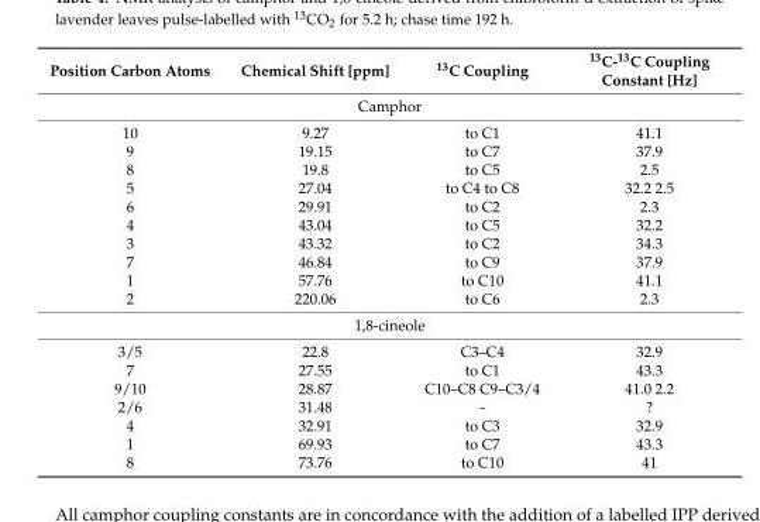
<table><thead><tr><td>Position Carbon Atoms</td><td>Chemical Shift [ppm]</td><td><sup>13</sup>C Coupling</td><td><sup>13</sup>C-<sup>13</sup>C Coupling Constant [Hz]</td></tr></thead><tbody><tr><td colspan="4">Camphor</td></tr><tr><td>10</td><td>9.27</td><td>to C1</td><td>41.1</td></tr><tr><td>9</td><td>19.15</td><td>to C7</td><td>37.9</td></tr><tr><td>8</td><td>19.8</td><td>to C5</td><td>2.5</td></tr><tr><td>5</td><td>27.04</td><td>to C4 to C8</td><td>32.2 2.5</td></tr><tr><td>6</td><td>29.91</td><td>to C2</td><td>2.3</td></tr><tr><td>4</td><td>43.04</td><td>to C5</td><td>32.2</td></tr><tr><td>3</td><td>43.32</td><td>to C2</td><td>34.3</td></tr><tr><td>7</td><td>46.84</td><td>to C9</td><td>37.9</td></tr><tr><td>1</td><td>57.76</td><td>to C10</td><td>41.1</td></tr><tr><td>2</td><td>220.06</td><td>to C6</td><td>2.3</td></tr><tr><td colspan="4">1,8-cineole</td></tr><tr><td>3/5</td><td>22.8</td><td>C3–C4</td><td>32.9</td></tr><tr><td>7</td><td>27.55</td><td>to C1</td><td>43.3</td></tr><tr><td>9/10</td><td>28.87</td><td>C10–C8 C9–C3/4</td><td>41.0 2.2</td></tr><tr><td>2/6</td><td>31.48</td><td>-</td><td>?</td></tr><tr><td>4</td><td>32.91</td><td>to C3</td><td>32.9</td></tr><tr><td>1</td><td>69.93</td><td>to C7</td><td>43.3</td></tr><tr><td>8</td><td>73.76</td><td>to C10</td><td>41</td></tr></tbody></table>